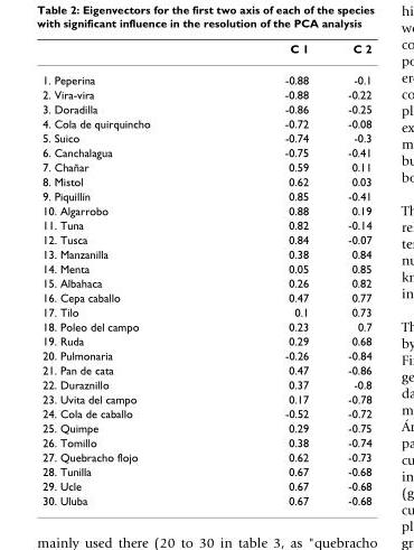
<table><thead><tr><td></td><td>C 1</td><td>C 2</td></tr></thead><tbody><tr><td>1. Peperina</td><td>-0.88</td><td>-0.1</td></tr><tr><td>2. Vira-vira</td><td>-0.88</td><td>-0.22</td></tr><tr><td>3. Doradilla</td><td>-0.86</td><td>-0.25</td></tr><tr><td>4. Cola de quirquincho</td><td>-0.72</td><td>-0.08</td></tr><tr><td>5. Suico</td><td>-0.74</td><td>-0.3</td></tr><tr><td>6. Canchalagua</td><td>-0.75</td><td>-0.41</td></tr><tr><td>7. Chañar</td><td>0.59</td><td>0.11</td></tr><tr><td>8. Mistol</td><td>0.62</td><td>0.03</td></tr><tr><td>9. Piquillín</td><td>0.85</td><td>-0.41</td></tr><tr><td>10. Algarrobo</td><td>0.88</td><td>0.19</td></tr><tr><td>11. Tuna</td><td>0.82</td><td>-0.14</td></tr><tr><td>12. Tusca</td><td>0.84</td><td>-0.07</td></tr><tr><td>13. Manzanilla</td><td>0.38</td><td>0.84</td></tr><tr><td>14. Menta</td><td>0.05</td><td>0.85</td></tr><tr><td>15. Albahaca</td><td>0.26</td><td>0.82</td></tr><tr><td>16. Cepa caballo</td><td>0.47</td><td>0.77</td></tr><tr><td>17. Tilo</td><td>0.1</td><td>0.73</td></tr><tr><td>18. Poleo del campo</td><td>0.23</td><td>0.7</td></tr><tr><td>19. Ruda</td><td>0.29</td><td>0.68</td></tr><tr><td>20. Pulmonaria</td><td>-0.26</td><td>-0.84</td></tr><tr><td>21. Pan de cata</td><td>0.47</td><td>-0.86</td></tr><tr><td>22. Duraznillo</td><td>0.37</td><td>-0.8</td></tr><tr><td>23. Uvita del campo</td><td>0.17</td><td>-0.78</td></tr><tr><td>24. Cola de caballo</td><td>-0.52</td><td>-0.72</td></tr><tr><td>25. Quimpe</td><td>0.29</td><td>-0.75</td></tr><tr><td>26. Tomillo</td><td>0.38</td><td>-0.74</td></tr><tr><td>27. Quebracho flojo</td><td>0.62</td><td>-0.73</td></tr><tr><td>28. Tunilla</td><td>0.67</td><td>-0.68</td></tr><tr><td>29. Ucle</td><td>0.67</td><td>-0.68</td></tr><tr><td>30. Uluba</td><td>0.67</td><td>-0.68</td></tr></tbody></table>